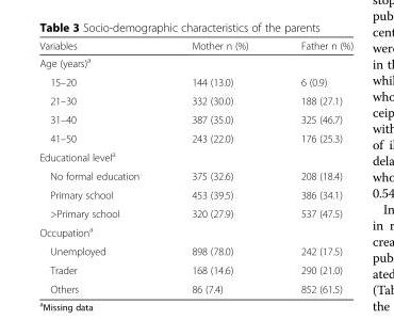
<table><thead><tr><td>Variables</td><td>Mother n (%)</td><td>Father n (%)</td></tr></thead><tbody><tr><td colspan="3">Age (years)<sup>a</sup></td></tr><tr><td>15–20</td><td>144 (13.0)</td><td>6 (0.9)</td></tr><tr><td>21–30</td><td>332 (30.0)</td><td>188 (27.1)</td></tr><tr><td>31–40</td><td>387 (35.0)</td><td>325 (46.7)</td></tr><tr><td>41–50</td><td>243 (22.0)</td><td>176 (25.3)</td></tr><tr><td colspan="3">Educational level<sup>a</sup></td></tr><tr><td>No formal education</td><td>375 (32.6)</td><td>208 (18.4)</td></tr><tr><td>Primary school</td><td>453 (39.5)</td><td>386 (34.1)</td></tr><tr><td>&gt;Primary school</td><td>320 (27.9)</td><td>537 (47.5)</td></tr><tr><td colspan="3">Occupation<sup>a</sup></td></tr><tr><td>Unemployed</td><td>898 (78.0)</td><td>242 (17.5)</td></tr><tr><td>Trader</td><td>168 (14.6)</td><td>290 (21.0)</td></tr><tr><td>Others</td><td>86 (7.4)</td><td>852 (61.5)</td></tr></tbody></table>